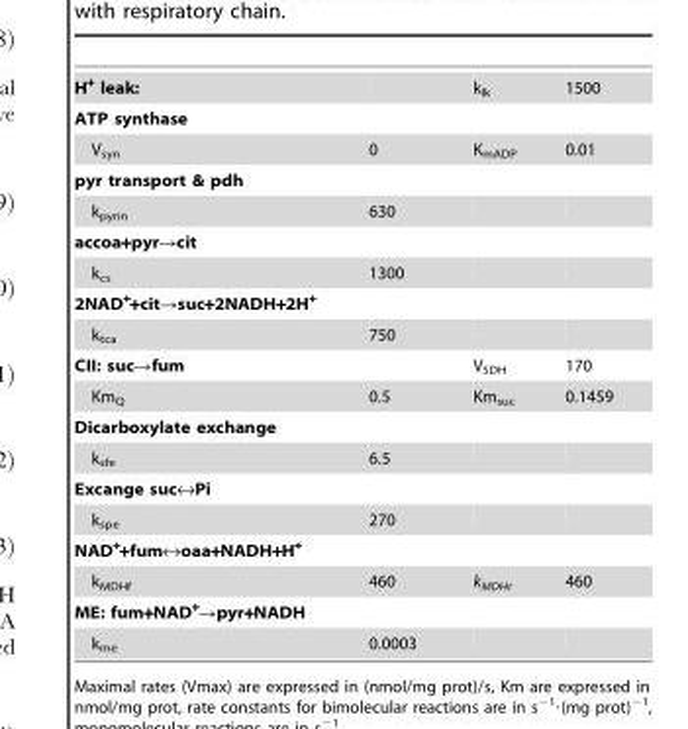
<table><tbody><tr><td>H<sup>+</sup> leak:</td><td></td><td>k<sub>lk</sub></td><td>1500</td></tr><tr><td colspan="4">ATP synthase</td></tr><tr><td>V<sub>syn</sub></td><td>0</td><td>K<sub>mADP</sub></td><td>0.01</td></tr><tr><td colspan="4">pyr transport &amp; pdh</td></tr><tr><td>k<sub>pyrin</sub></td><td>630</td><td></td><td></td></tr><tr><td colspan="4">accoa+pyr→cit</td></tr><tr><td>k<sub>cs</sub></td><td>1300</td><td></td><td></td></tr><tr><td colspan="4">2NAD<sup>+</sup>+cit→suc+2NADH+2H<sup>+</sup></td></tr><tr><td>k<sub>tca</sub></td><td>750</td><td></td><td></td></tr><tr><td colspan="2">CII: suc→fum</td><td>V<sub>SDH</sub></td><td>170</td></tr><tr><td>Km<sub>Q</sub></td><td>0.5</td><td>Km<sub>suc</sub></td><td>0.1459</td></tr><tr><td colspan="4">Dicarboxylate exchange</td></tr><tr><td>k<sub>sfe</sub></td><td>6.5</td><td></td><td></td></tr><tr><td colspan="4">Excange suc↔Pi</td></tr><tr><td>k<sub>spe</sub></td><td>270</td><td></td><td></td></tr><tr><td colspan="4">NAD<sup>+</sup>+fum↔oaa+NADH+H<sup>+</sup></td></tr><tr><td>k<sub>MDHf</sub></td><td>460</td><td>k<sub>MDHr</sub></td><td>460</td></tr><tr><td colspan="4">ME: fum+NAD<sup>+</sup>→pyr+NADH</td></tr><tr><td>k<sub>me</sub></td><td>0.0003</td><td></td><td></td></tr></tbody></table>